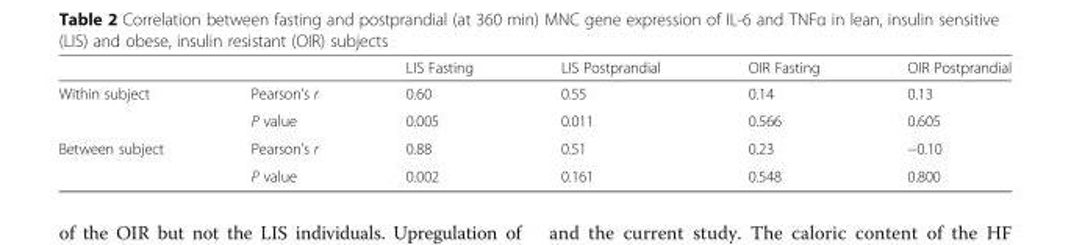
<table><thead><tr><td></td><td></td><td>LIS Fasting</td><td>LIS Postprandial</td><td>OIR Fasting</td><td>OIR Postprandial</td></tr></thead><tbody><tr><td rowspan="2">Within subject</td><td>Pearson’s r</td><td>0.60</td><td>0.55</td><td>0.14</td><td>0.13</td></tr><tr><td>P value</td><td>0.005</td><td>0.011</td><td>0.566</td><td>0.605</td></tr><tr><td rowspan="2">Between subject</td><td>Pearson’s r</td><td>0.88</td><td>0.51</td><td>0.23</td><td>−0.10</td></tr><tr><td>P value</td><td>0.002</td><td>0.161</td><td>0.548</td><td>0.800</td></tr></tbody></table>